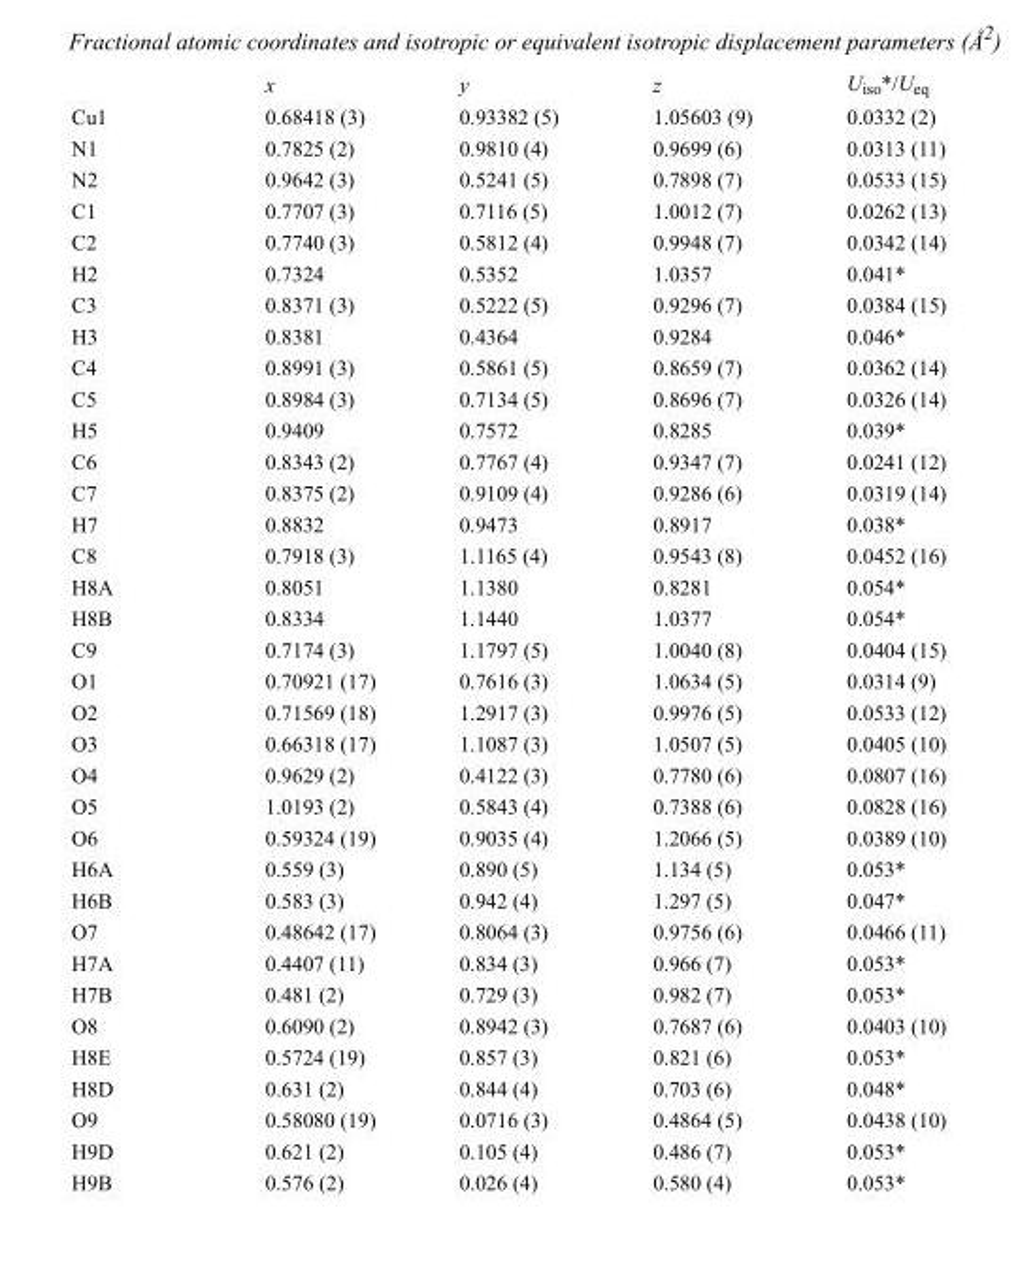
<table><thead><tr><td></td><td>x</td><td>y</td><td>z</td><td>U<sub>iso</sub>*/U<sub>eq</sub></td></tr></thead><tbody><tr><td>Cu1</td><td>0.68418 (3)</td><td>0.93382 (5)</td><td>1.05603 (9)</td><td>0.0332 (2)</td></tr><tr><td>N1</td><td>0.7825 (2)</td><td>0.9810 (4)</td><td>0.9699 (6)</td><td>0.0313 (11)</td></tr><tr><td>N2</td><td>0.9642 (3)</td><td>0.5241 (5)</td><td>0.7898 (7)</td><td>0.0533 (15)</td></tr><tr><td>C1</td><td>0.7707 (3)</td><td>0.7116 (5)</td><td>1.0012 (7)</td><td>0.0262 (13)</td></tr><tr><td>C2</td><td>0.7740 (3)</td><td>0.5812 (4)</td><td>0.9948 (7)</td><td>0.0342 (14)</td></tr><tr><td>H2</td><td>0.7324</td><td>0.5352</td><td>1.0357</td><td>0.041*</td></tr><tr><td>C3</td><td>0.8371 (3)</td><td>0.5222 (5)</td><td>0.9296 (7)</td><td>0.0384 (15)</td></tr><tr><td>H3</td><td>0.8381</td><td>0.4364</td><td>0.9284</td><td>0.046*</td></tr><tr><td>C4</td><td>0.8991 (3)</td><td>0.5861 (5)</td><td>0.8659 (7)</td><td>0.0362 (14)</td></tr><tr><td>C5</td><td>0.8984 (3)</td><td>0.7134 (5)</td><td>0.8696 (7)</td><td>0.0326 (14)</td></tr><tr><td>H5</td><td>0.9409</td><td>0.7572</td><td>0.8285</td><td>0.039*</td></tr><tr><td>C6</td><td>0.8343 (2)</td><td>0.7767 (4)</td><td>0.9347 (7)</td><td>0.0241 (12)</td></tr><tr><td>C7</td><td>0.8375 (2)</td><td>0.9109 (4)</td><td>0.9286 (6)</td><td>0.0319 (14)</td></tr><tr><td>H7</td><td>0.8832</td><td>0.9473</td><td>0.8917</td><td>0.038*</td></tr><tr><td>C8</td><td>0.7918 (3)</td><td>1.1165 (4)</td><td>0.9543 (8)</td><td>0.0452 (16)</td></tr><tr><td>H8A</td><td>0.8051</td><td>1.1380</td><td>0.8281</td><td>0.054*</td></tr><tr><td>H8B</td><td>0.8334</td><td>1.1440</td><td>1.0377</td><td>0.054*</td></tr><tr><td>C9</td><td>0.7174 (3)</td><td>1.1797 (5)</td><td>1.0040 (8)</td><td>0.0404 (15)</td></tr><tr><td>O1</td><td>0.70921 (17)</td><td>0.7616 (3)</td><td>1.0634 (5)</td><td>0.0314 (9)</td></tr><tr><td>O2</td><td>0.71569 (18)</td><td>1.2917 (3)</td><td>0.9976 (5)</td><td>0.0533 (12)</td></tr><tr><td>O3</td><td>0.66318 (17)</td><td>1.1087 (3)</td><td>1.0507 (5)</td><td>0.0405 (10)</td></tr><tr><td>O4</td><td>0.9629 (2)</td><td>0.4122 (3)</td><td>0.7780 (6)</td><td>0.0807 (16)</td></tr><tr><td>O5</td><td>1.0193 (2)</td><td>0.5843 (4)</td><td>0.7388 (6)</td><td>0.0828 (16)</td></tr><tr><td>O6</td><td>0.59324 (19)</td><td>0.9035 (4)</td><td>1.2066 (5)</td><td>0.0389 (10)</td></tr><tr><td>H6A</td><td>0.559 (3)</td><td>0.890 (5)</td><td>1.134 (5)</td><td>0.053*</td></tr><tr><td>H6B</td><td>0.583 (3)</td><td>0.942 (4)</td><td>1.297 (5)</td><td>0.047*</td></tr><tr><td>O7</td><td>0.48642 (17)</td><td>0.8064 (3)</td><td>0.9756 (6)</td><td>0.0466 (11)</td></tr><tr><td>H7A</td><td>0.4407 (11)</td><td>0.834 (3)</td><td>0.966 (7)</td><td>0.053*</td></tr><tr><td>H7B</td><td>0.481 (2)</td><td>0.729 (3)</td><td>0.982 (7)</td><td>0.053*</td></tr><tr><td>O8</td><td>0.6090 (2)</td><td>0.8942 (3)</td><td>0.7687 (6)</td><td>0.0403 (10)</td></tr><tr><td>H8E</td><td>0.5724 (19)</td><td>0.857 (3)</td><td>0.821 (6)</td><td>0.053*</td></tr><tr><td>H8D</td><td>0.631 (2)</td><td>0.844 (4)</td><td>0.703 (6)</td><td>0.048*</td></tr><tr><td>O9</td><td>0.58080 (19)</td><td>0.0716 (3)</td><td>0.4864 (5)</td><td>0.0438 (10)</td></tr><tr><td>H9D</td><td>0.621 (2)</td><td>0.105 (4)</td><td>0.486 (7)</td><td>0.053*</td></tr><tr><td>H9B</td><td>0.576 (2)</td><td>0.026 (4)</td><td>0.580 (4)</td><td>0.053*</td></tr></tbody></table>